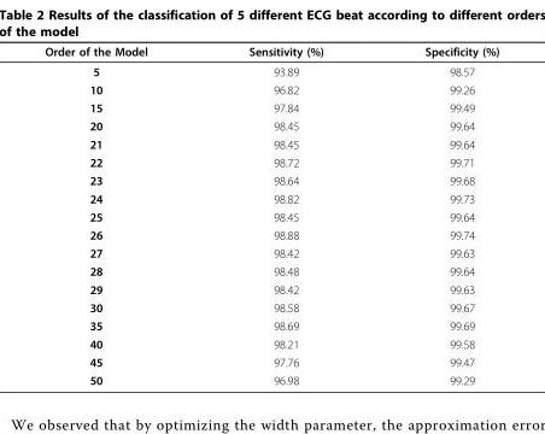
<table><thead><tr><td>Order of the Model</td><td>Sensitivity (%)</td><td>Specificity (%)</td></tr></thead><tbody><tr><td>5</td><td>93.89</td><td>98.57</td></tr><tr><td>10</td><td>96.82</td><td>99.26</td></tr><tr><td>15</td><td>97.84</td><td>99.49</td></tr><tr><td>20</td><td>98.45</td><td>99.64</td></tr><tr><td>21</td><td>98.45</td><td>99.64</td></tr><tr><td>22</td><td>98.72</td><td>99.71</td></tr><tr><td>23</td><td>98.64</td><td>99.68</td></tr><tr><td>24</td><td>98.82</td><td>99.73</td></tr><tr><td>25</td><td>98.45</td><td>99.64</td></tr><tr><td>26</td><td>98.88</td><td>99.74</td></tr><tr><td>27</td><td>98.42</td><td>99.63</td></tr><tr><td>28</td><td>98.48</td><td>99.64</td></tr><tr><td>29</td><td>98.42</td><td>99.63</td></tr><tr><td>30</td><td>98.58</td><td>99.67</td></tr><tr><td>35</td><td>98.69</td><td>99.69</td></tr><tr><td>40</td><td>98.21</td><td>99.58</td></tr><tr><td>45</td><td>97.76</td><td>99.47</td></tr><tr><td>50</td><td>96.98</td><td>99.29</td></tr></tbody></table>